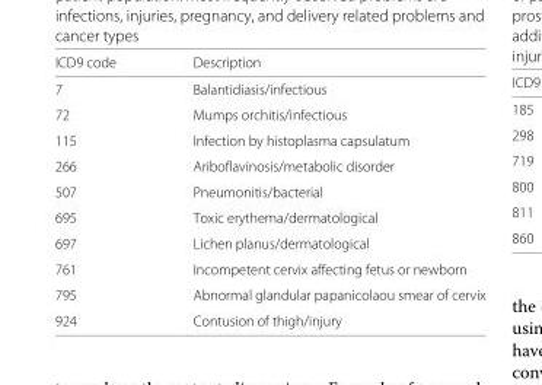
<table><thead><tr><td>ICD9 code</td><td>Description</td></tr></thead><tbody><tr><td>7</td><td>Balantidiasis/infectious</td></tr><tr><td>72</td><td>Mumps orchitis/infectious</td></tr><tr><td>115</td><td>Infection by histoplasma capsulatum</td></tr><tr><td>266</td><td>Ariboflavinosis/metabolic disorder</td></tr><tr><td>507</td><td>Pneumonitis/bacterial</td></tr><tr><td>695</td><td>Toxic erythema/dermatological</td></tr><tr><td>697</td><td>Lichen planus/dermatological</td></tr><tr><td>761</td><td>Incompetent cervix affecting fetus or newborn</td></tr><tr><td>795</td><td>Abnormal glandular papanicolaou smear of cervix</td></tr><tr><td>924</td><td>Contusion of thigh/injury</td></tr></tbody></table>